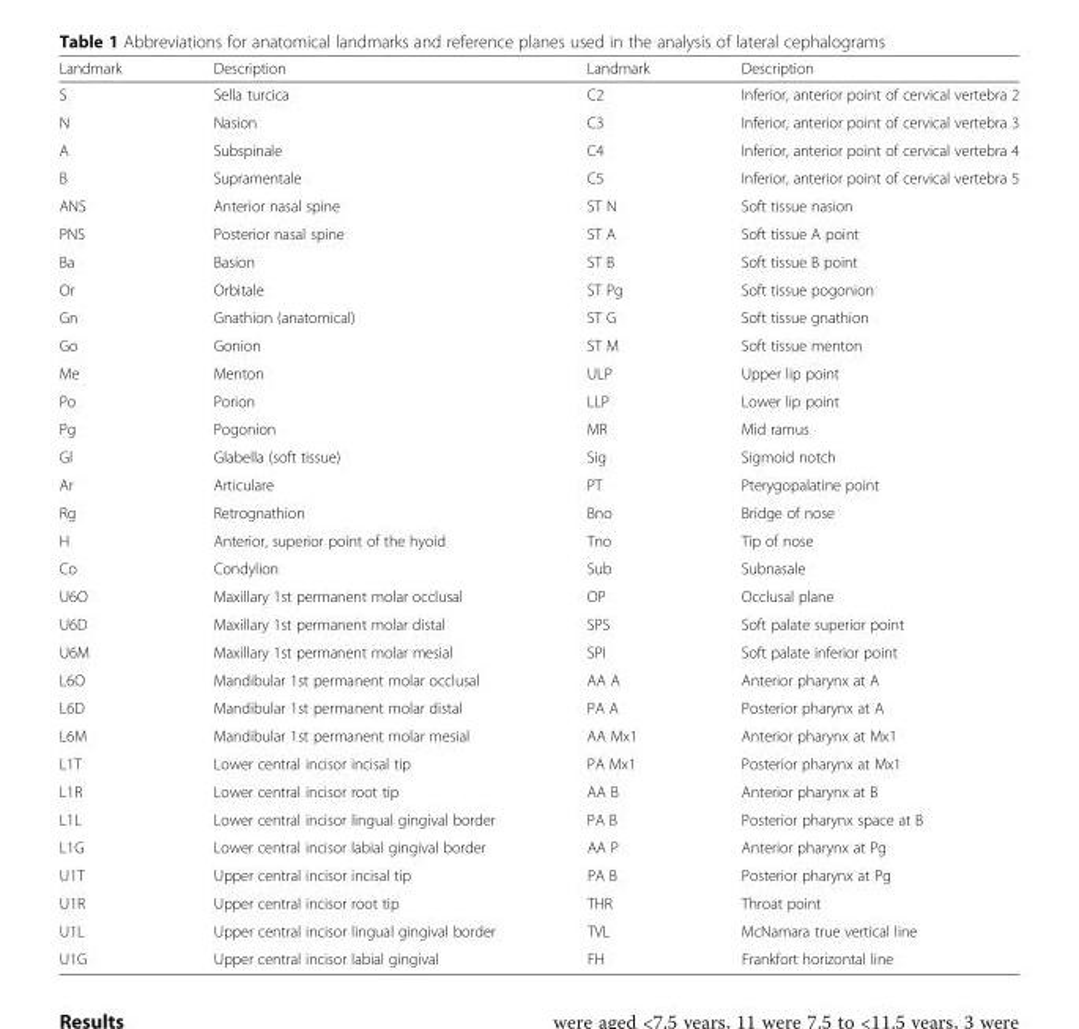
<table><thead><tr><td>Landmark</td><td>Description</td><td>Landmark</td><td>Description</td></tr></thead><tbody><tr><td>S</td><td>Sella turcica</td><td>C2</td><td>Inferior, anterior point of cervical vertebra 2</td></tr><tr><td>N</td><td>Nasion</td><td>C3</td><td>Inferior, anterior point of cervical vertebra 3</td></tr><tr><td>A</td><td>Subspinale</td><td>C4</td><td>Inferior, anterior point of cervical vertebra 4</td></tr><tr><td>B</td><td>Supramentale</td><td>C5</td><td>Inferior, anterior point of cervical vertebra 5</td></tr><tr><td>ANS</td><td>Anterior nasal spine</td><td>ST N</td><td>Soft tissue nasion</td></tr><tr><td>PNS</td><td>Posterior nasal spine</td><td>ST A</td><td>Soft tissue A point</td></tr><tr><td>Ba</td><td>Basion</td><td>ST B</td><td>Soft tissue B point</td></tr><tr><td>Or</td><td>Orbitale</td><td>ST Pg</td><td>Soft tissue pogonion</td></tr><tr><td>Gn</td><td>Gnathion (anatomical)</td><td>ST G</td><td>Soft tissue gnathion</td></tr><tr><td>Go</td><td>Gonion</td><td>ST M</td><td>Soft tissue menton</td></tr><tr><td>Me</td><td>Menton</td><td>ULP</td><td>Upper lip point</td></tr><tr><td>Po</td><td>Porion</td><td>LLP</td><td>Lower lip point</td></tr><tr><td>Pg</td><td>Pogonion</td><td>MR</td><td>Mid ramus</td></tr><tr><td>Gl</td><td>Glabella (soft tissue)</td><td>Sig</td><td>Sigmoid notch</td></tr><tr><td>Ar</td><td>Articulare</td><td>PT</td><td>Pterygopalatine point</td></tr><tr><td>Rg</td><td>Retrognathion</td><td>Bno</td><td>Bridge of nose</td></tr><tr><td>H</td><td>Anterior, superior point of the hyoid</td><td>Tno</td><td>Tip of nose</td></tr><tr><td>Co</td><td>Condylion</td><td>Sub</td><td>Subnasale</td></tr><tr><td>U6O</td><td>Maxillary 1st permanent molar occlusal</td><td>OP</td><td>Occlusal plane</td></tr><tr><td>U6D</td><td>Maxillary 1st permanent molar distal</td><td>SPS</td><td>Soft palate superior point</td></tr><tr><td>U6M</td><td>Maxillary 1st permanent molar mesial</td><td>SPI</td><td>Soft palate inferior point</td></tr><tr><td>L6O</td><td>Mandibular 1st permanent molar occlusal</td><td>AA A</td><td>Anterior pharynx at A</td></tr><tr><td>L6D</td><td>Mandibular 1st permanent molar distal</td><td>PA A</td><td>Posterior pharynx at A</td></tr><tr><td>L6M</td><td>Mandibular 1st permanent molar mesial</td><td>AA Mx1</td><td>Anterior pharynx at Mx1</td></tr><tr><td>L1T</td><td>Lower central incisor incisal tip</td><td>PA Mx1</td><td>Posterior pharynx at Mx1</td></tr><tr><td>L1R</td><td>Lower central incisor root tip</td><td>AA B</td><td>Anterior pharynx at B</td></tr><tr><td>L1L</td><td>Lower central incisor lingual gingival border</td><td>PA B</td><td>Posterior pharynx space at B</td></tr><tr><td>L1G</td><td>Lower central incisor labial gingival border</td><td>AA P</td><td>Anterior pharynx at Pg</td></tr><tr><td>U1T</td><td>Upper central incisor incisal tip</td><td>PA B</td><td>Posterior pharynx at Pg</td></tr><tr><td>U1R</td><td>Upper central incisor root tip</td><td>THR</td><td>Throat point</td></tr><tr><td>U1L</td><td>Upper central incisor lingual gingival border</td><td>TVL</td><td>McNamara true vertical line</td></tr><tr><td>U1G</td><td>Upper central incisor labial gingival</td><td>FH</td><td>Frankfort horizontal line</td></tr></tbody></table>